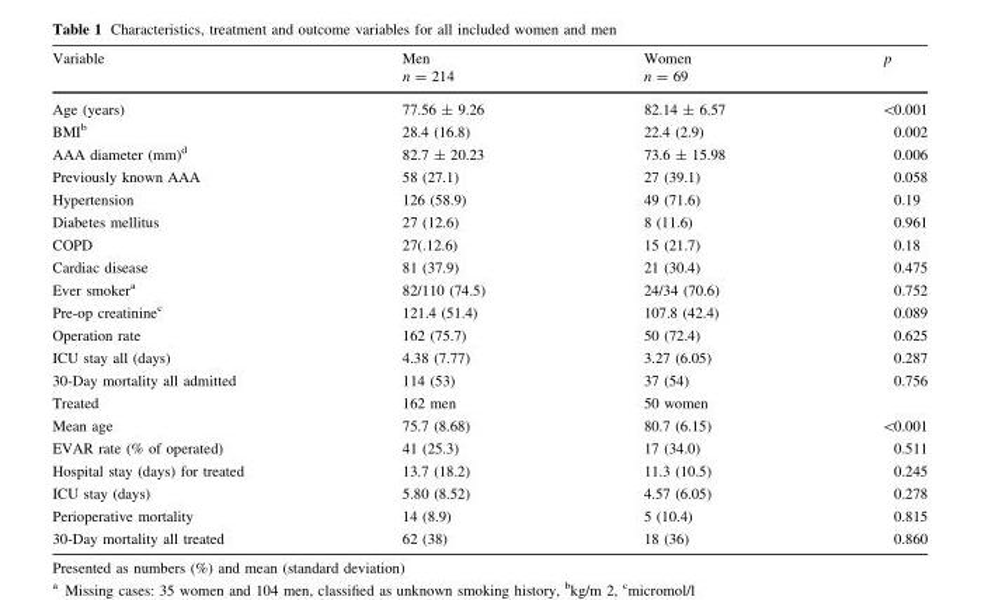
<table><thead><tr><td>Variable</td><td>Men n = 214</td><td>Women n = 69</td><td>p</td></tr></thead><tbody><tr><td>Age (years)</td><td>77.56 ± 9.26</td><td>82.14 ± 6.57</td><td>&lt;0.001</td></tr><tr><td>BMI<sup>b</sup></td><td>28.4 (16.8)</td><td>22.4 (2.9)</td><td>0.002</td></tr><tr><td>AAA diameter (mm)<sup>d</sup></td><td>82.7 ± 20.23</td><td>73.6 ± 15.98</td><td>0.006</td></tr><tr><td>Previously known AAA</td><td>58 (27.1)</td><td>27 (39.1)</td><td>0.058</td></tr><tr><td>Hypertension</td><td>126 (58.9)</td><td>49 (71.6)</td><td>0.19</td></tr><tr><td>Diabetes mellitus</td><td>27 (12.6)</td><td>8 (11.6)</td><td>0.961</td></tr><tr><td>COPD</td><td>27(.12.6)</td><td>15 (21.7)</td><td>0.18</td></tr><tr><td>Cardiac disease</td><td>81 (37.9)</td><td>21 (30.4)</td><td>0.475</td></tr><tr><td>Ever smoker<sup>a</sup></td><td>82/110 (74.5)</td><td>24/34 (70.6)</td><td>0.752</td></tr><tr><td>Pre-op creatinine<sup>c</sup></td><td>121.4 (51.4)</td><td>107.8 (42.4)</td><td>0.089</td></tr><tr><td>Operation rate</td><td>162 (75.7)</td><td>50 (72.4)</td><td>0.625</td></tr><tr><td>ICU stay all (days)</td><td>4.38 (7.77)</td><td>3.27 (6.05)</td><td>0.287</td></tr><tr><td>30-Day mortality all admitted</td><td>114 (53)</td><td>37 (54)</td><td>0.756</td></tr><tr><td>Treated</td><td>162 men</td><td>50 women</td><td></td></tr><tr><td>Mean age</td><td>75.7 (8.68)</td><td>80.7 (6.15)</td><td>&lt;0.001</td></tr><tr><td>EVAR rate (% of operated)</td><td>41 (25.3)</td><td>17 (34.0)</td><td>0.511</td></tr><tr><td>Hospital stay (days) for treated</td><td>13.7 (18.2)</td><td>11.3 (10.5)</td><td>0.245</td></tr><tr><td>ICU stay (days)</td><td>5.80 (8.52)</td><td>4.57 (6.05)</td><td>0.278</td></tr><tr><td>Perioperative mortality</td><td>14 (8.9)</td><td>5 (10.4)</td><td>0.815</td></tr><tr><td>30-Day mortality all treated</td><td>62 (38)</td><td>18 (36)</td><td>0.860</td></tr></tbody></table>